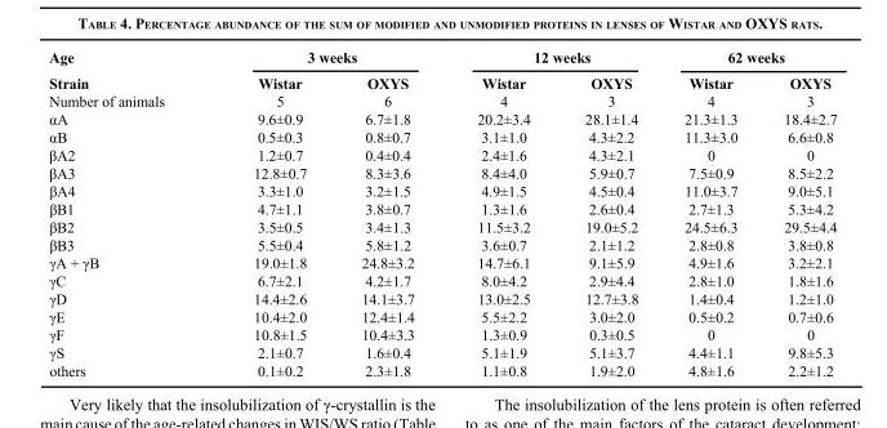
<table><thead><tr><td rowspan="2">Age Strain</td><td colspan="2">3 weeks</td><td colspan="2">12 weeks</td><td colspan="2">62 weeks</td></tr><tr><td>Wistar</td><td>OXYS</td><td>Wistar</td><td>OXYS</td><td>Wistar</td><td>OXYS</td></tr></thead><tbody><tr><td>Number of animals</td><td>5</td><td>6</td><td>4</td><td>3</td><td>4</td><td>3</td></tr><tr><td>αA</td><td>9.6±0.9</td><td>6.7±1.8</td><td>20.2±3.4</td><td>28.1±1.4</td><td>21.3±1.3</td><td>18.4±2.7</td></tr><tr><td>αB</td><td>0.5±0.3</td><td>0.8±0.7</td><td>3.1±1.0</td><td>4.3±2.2</td><td>11.3±3.0</td><td>6.6±0.8</td></tr><tr><td>βA2</td><td>1.2±0.7</td><td>0.4±0.4</td><td>2.4±1.6</td><td>4.3±2.1</td><td>0</td><td>0</td></tr><tr><td>βA3</td><td>12.8±0.7</td><td>8.3±3.6</td><td>8.4±4.0</td><td>5.9±0.7</td><td>7.5±0.9</td><td>8.5±2.2</td></tr><tr><td>βA4</td><td>3.3±1.0</td><td>3.2±1.5</td><td>4.9±1.5</td><td>4.5±0.4</td><td>11.0±3.7</td><td>9.0±5.1</td></tr><tr><td>βB1</td><td>4.7±1.1</td><td>3.8±0.7</td><td>1.3±1.6</td><td>2.6±0.4</td><td>2.7±1.3</td><td>5.3±4.2</td></tr><tr><td>βB2</td><td>3.5±0.5</td><td>3.4±1.3</td><td>11.5±3.2</td><td>19.0±5.2</td><td>24.5±6.3</td><td>29.5±4.4</td></tr><tr><td>βB3</td><td>5.5±0.4</td><td>5.8±1.2</td><td>3.6±0.7</td><td>2.1±1.2</td><td>2.8±0.8</td><td>3.8±0.8</td></tr><tr><td>γA + γB</td><td>19.0±1.8</td><td>24.8±3.2</td><td>14.7±6.1</td><td>9.1±5.9</td><td>4.9±1.6</td><td>3.2±2.1</td></tr><tr><td>γC</td><td>6.7±2.1</td><td>4.2±1.7</td><td>8.0±4.2</td><td>2.9±4.4</td><td>2.8±1.0</td><td>1.8±1.6</td></tr><tr><td>γD</td><td>14.4±2.6</td><td>14.1±3.7</td><td>13.0±2.5</td><td>12.7±3.8</td><td>1.4±0.4</td><td>1.2±1.0</td></tr><tr><td>γE</td><td>10.4±2.0</td><td>12.4±1.4</td><td>5.5±2.2</td><td>3.0±2.0</td><td>0.5±0.2</td><td>0.7±0.6</td></tr><tr><td>γF</td><td>10.8±1.5</td><td>10.4±3.3</td><td>1.3±0.9</td><td>0.3±0.5</td><td>0</td><td>0</td></tr><tr><td>γS</td><td>2.1±0.7</td><td>1.6±0.4</td><td>5.1±1.9</td><td>5.1±3.7</td><td>4.4±1.1</td><td>9.8±5.3</td></tr><tr><td>others</td><td>0.1±0.2</td><td>2.3±1.8</td><td>1.1±0.8</td><td>1.9±2.0</td><td>4.8±1.6</td><td>2.2±1.2</td></tr></tbody></table>